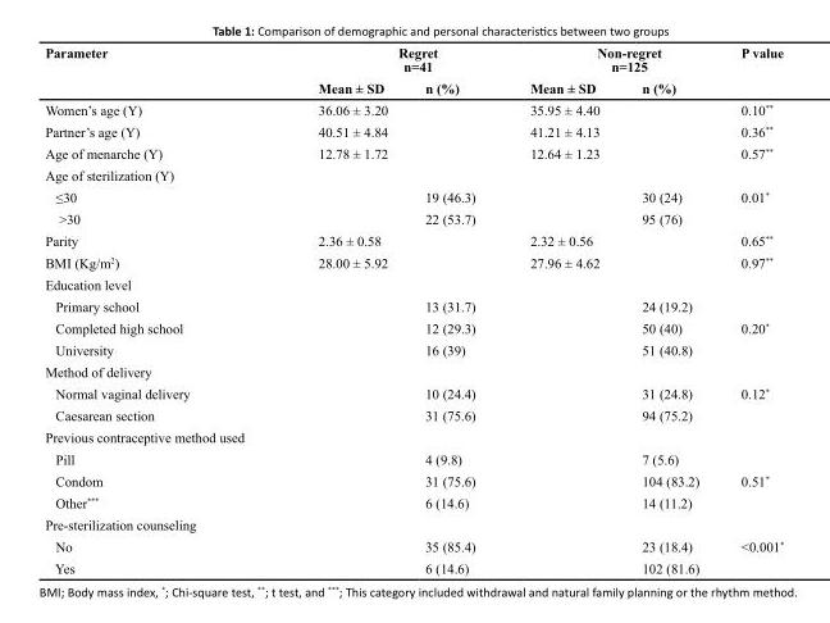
<table><thead><tr><td rowspan="2">Parameter</td><td colspan="2">Regret n=41</td><td colspan="2">Non-regret n=125</td><td rowspan="2">P value</td></tr><tr><td>Mean ± SD</td><td>n (%)</td><td>Mean ± SD</td><td>n (%)</td></tr></thead><tbody><tr><td>Women’s age (Y)</td><td>36.06 ± 3.20</td><td></td><td>35.95 ± 4.40</td><td></td><td>0.10**</td></tr><tr><td>Partner’s age (Y)</td><td>40.51 ± 4.84</td><td></td><td>41.21 ± 4.13</td><td></td><td>0.36**</td></tr><tr><td>Age of menarche (Y)</td><td>12.78 ± 1.72</td><td></td><td>12.64 ± 1.23</td><td></td><td>0.57**</td></tr><tr><td colspan="6">Age of sterilization (Y)</td></tr><tr><td>≤30</td><td></td><td>19 (46.3)</td><td></td><td>30 (24)</td><td>0.01*</td></tr><tr><td>&gt;30</td><td></td><td>22 (53.7)</td><td></td><td>95 (76)</td><td></td></tr><tr><td>Parity</td><td>2.36 ± 0.58</td><td></td><td>2.32 ± 0.56</td><td></td><td>0.65**</td></tr><tr><td>BMI (Kg/m<sup>2</sup>)</td><td>28.00 ± 5.92</td><td></td><td>27.96 ± 4.62</td><td></td><td>0.97**</td></tr><tr><td colspan="6">Education level</td></tr><tr><td>Primary school</td><td></td><td>13 (31.7)</td><td></td><td>24 (19.2)</td><td></td></tr><tr><td>Completed high school</td><td></td><td>12 (29.3)</td><td></td><td>50 (40)</td><td>0.20*</td></tr><tr><td>University</td><td></td><td>16 (39)</td><td></td><td>51 (40.8)</td><td></td></tr><tr><td colspan="6">Method of delivery</td></tr><tr><td>Normal vaginal delivery</td><td></td><td>10 (24.4)</td><td></td><td>31 (24.8)</td><td>0.12*</td></tr><tr><td>Caesarean section</td><td></td><td>31 (75.6)</td><td></td><td>94 (75.2)</td><td></td></tr><tr><td colspan="6">Previous contraceptive method used</td></tr><tr><td>Pill</td><td></td><td>4 (9.8)</td><td></td><td>7 (5.6)</td><td></td></tr><tr><td>Condom</td><td></td><td>31 (75.6)</td><td></td><td>104 (83.2)</td><td>0.51*</td></tr><tr><td>Other***</td><td></td><td>6 (14.6)</td><td></td><td>14 (11.2)</td><td></td></tr><tr><td colspan="6">Pre-sterilization counseling</td></tr><tr><td>No</td><td></td><td>35 (85.4)</td><td></td><td>23 (18.4)</td><td>&lt;0.001*</td></tr><tr><td>Yes</td><td></td><td>6 (14.6)</td><td></td><td>102 (81.6)</td><td></td></tr></tbody></table>